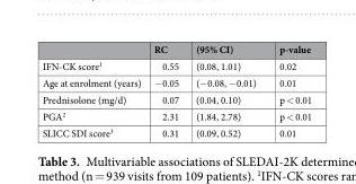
<table><thead><tr><td></td><td>RC</td><td>(95% CI)</td><td>p-value</td></tr></thead><tbody><tr><td>IFN-CK score<sup>1</sup></td><td>0.55</td><td>(0.08, 1.01)</td><td>0.02</td></tr><tr><td>Age at enrolment (years)</td><td>−0.05</td><td>(−0.08, −0.01)</td><td>0.01</td></tr><tr><td>Prednisolone (mg/d)</td><td>0.07</td><td>(0.04, 0.10)</td><td>p &lt; 0.01</td></tr><tr><td>PGA<sup>2</sup></td><td>2.31</td><td>(1.84, 2.78)</td><td>p &lt; 0.01</td></tr><tr><td>SLICC SDI score<sup>3</sup></td><td>0.31</td><td>(0.09, 0.52)</td><td>0.01</td></tr></tbody></table>